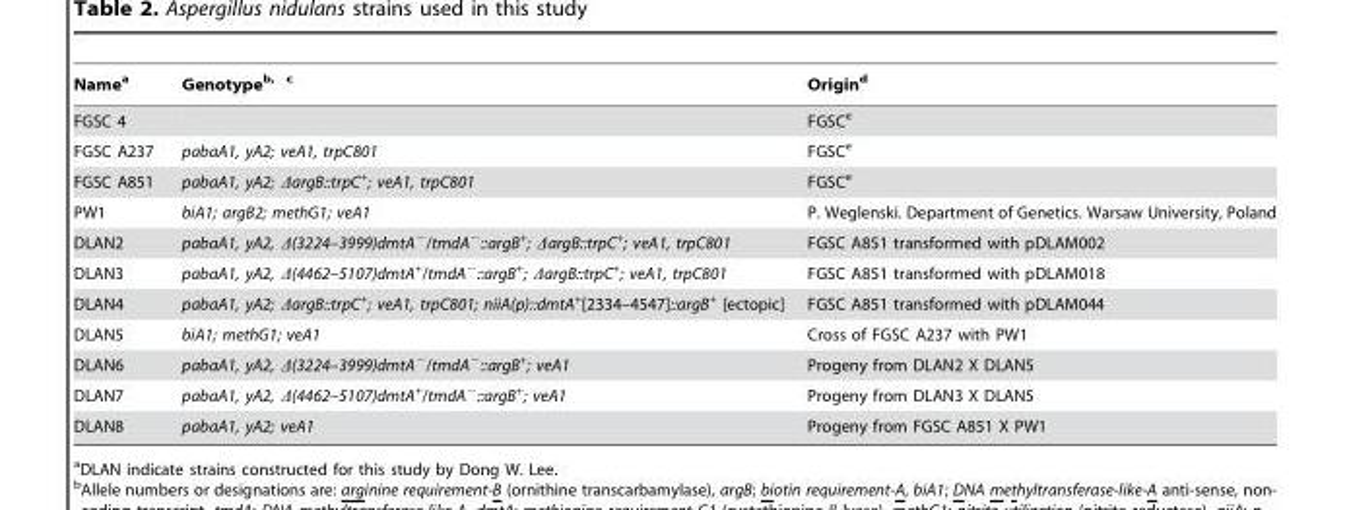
<table><thead><tr><td>Name<sup>a</sup></td><td>Genotype<sup>b</sup>, <sup>c</sup></td><td>Origin<sup>d</sup></td></tr></thead><tbody><tr><td>FGSC 4</td><td></td><td>FGSC<sup>e</sup></td></tr><tr><td>FGSC A237</td><td>pabaA1, yA2; veA1, trpC801</td><td>FGSC<sup>e</sup></td></tr><tr><td>FGSC A851</td><td>pabaA1, yA2; ΔargB::trpC<sup>+</sup>; veA1, trpC801</td><td>FGSC<sup>e</sup></td></tr><tr><td>PW1</td><td>biA1; argB2; methG1; veA1</td><td>P. Weglenski. Department of Genetics. Warsaw University, Poland</td></tr><tr><td>DLAN2</td><td>pabaA1, yA2, Δ(3224–3999)dmtA<sup>−</sup>/tmdA<sup>−</sup>::argB<sup>+</sup>; ΔargB::trpC<sup>+</sup>; veA1, trpC801</td><td>FGSC A851 transformed with pDLAM002</td></tr><tr><td>DLAN3</td><td>pabaA1, yA2, Δ(4462–5107)dmtA<sup>+</sup>/tmdA<sup>−</sup>::argB<sup>+</sup>; ΔargB::trpC<sup>+</sup>; veA1, trpC801</td><td>FGSC A851 transformed with pDLAM018</td></tr><tr><td>DLAN4</td><td>pabaA1, yA2; ΔargB::trpC<sup>+</sup>; veA1, trpC801; niiA(p)::dmtA<sup>+</sup>[2334–4547]::argB<sup>+</sup> [ectopic]</td><td>FGSC A851 transformed with pDLAM044</td></tr><tr><td>DLAN5</td><td>biA1; methG1; veA1</td><td>Cross of FGSC A237 with PW1</td></tr><tr><td>DLAN6</td><td>pabaA1, yA2, Δ(3224–3999)dmtA<sup>−</sup>/tmdA<sup>−</sup>::argB<sup>+</sup>; veA1</td><td>Progeny from DLAN2 X DLAN5</td></tr><tr><td>DLAN7</td><td>pabaA1, yA2, Δ(4462–5107)dmtA<sup>+</sup>/tmdA<sup>−</sup>::argB<sup>+</sup>; veA1</td><td>Progeny from DLAN3 X DLAN5</td></tr><tr><td>DLAN8</td><td>pabaA1, yA2; veA1</td><td>Progeny from FGSC A851 X PW1</td></tr></tbody></table>